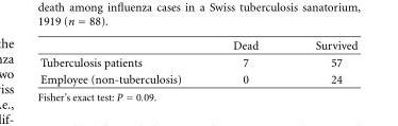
<table><thead><tr><td></td><td>Dead</td><td>Survived</td></tr></thead><tbody><tr><td>Tuberculosis patients</td><td>7</td><td>57</td></tr><tr><td>Employee (non-tuberculosis)</td><td>0</td><td>24</td></tr></tbody></table>